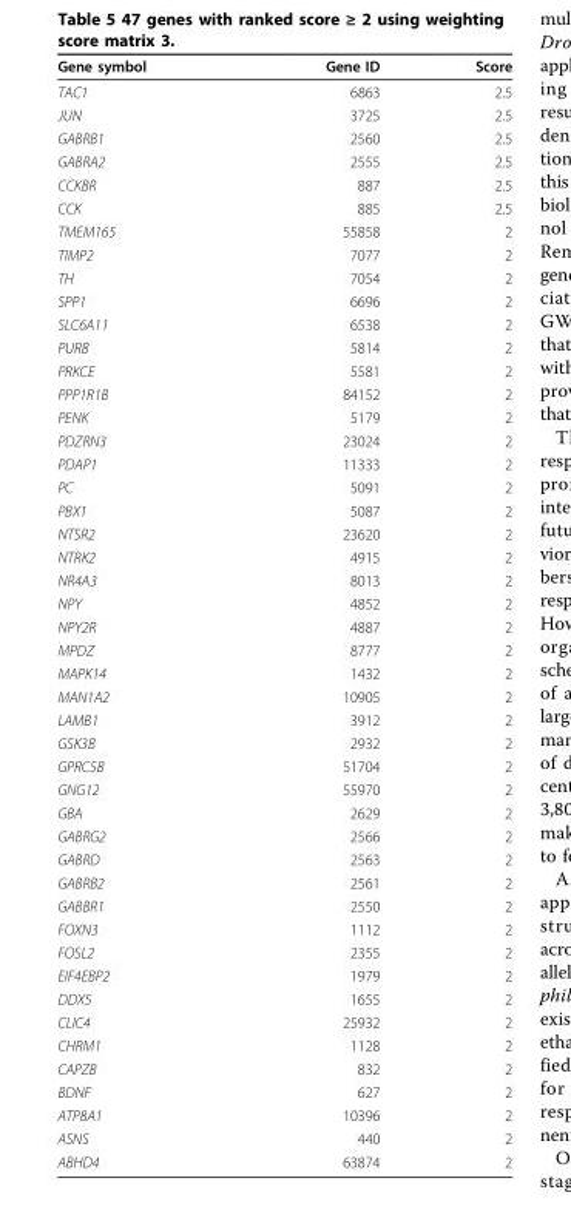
<table><thead><tr><td>Gene symbol</td><td>Gene ID</td><td>Score</td></tr></thead><tbody><tr><td>TAC1</td><td>6863</td><td>2.5</td></tr><tr><td>JUN</td><td>3725</td><td>2.5</td></tr><tr><td>GABRB1</td><td>2560</td><td>2.5</td></tr><tr><td>GABRA2</td><td>2555</td><td>2.5</td></tr><tr><td>CCKBR</td><td>887</td><td>2.5</td></tr><tr><td>CCK</td><td>885</td><td>2.5</td></tr><tr><td>TMEM165</td><td>55858</td><td>2</td></tr><tr><td>TIMP2</td><td>7077</td><td>2</td></tr><tr><td>TH</td><td>7054</td><td>2</td></tr><tr><td>SPP1</td><td>6696</td><td>2</td></tr><tr><td>SLC6A11</td><td>6538</td><td>2</td></tr><tr><td>PURB</td><td>5814</td><td>2</td></tr><tr><td>PRKCE</td><td>5581</td><td>2</td></tr><tr><td>PPP1R1B</td><td>84152</td><td>2</td></tr><tr><td>PENK</td><td>5179</td><td>2</td></tr><tr><td>PDZRN3</td><td>23024</td><td>2</td></tr><tr><td>PDAP1</td><td>11333</td><td>2</td></tr><tr><td>PC</td><td>5091</td><td>2</td></tr><tr><td>PBX1</td><td>5087</td><td>2</td></tr><tr><td>NTSR2</td><td>23620</td><td>2</td></tr><tr><td>NTRK2</td><td>4915</td><td>2</td></tr><tr><td>NR4A3</td><td>8013</td><td>2</td></tr><tr><td>NPY</td><td>4852</td><td>2</td></tr><tr><td>NPY2R</td><td>4887</td><td>2</td></tr><tr><td>MPDZ</td><td>8777</td><td>2</td></tr><tr><td>MAPK14</td><td>1432</td><td>2</td></tr><tr><td>MAN1A2</td><td>10905</td><td>2</td></tr><tr><td>LAMB1</td><td>3912</td><td>2</td></tr><tr><td>GSK3B</td><td>2932</td><td>2</td></tr><tr><td>GPRC5B</td><td>51704</td><td>2</td></tr><tr><td>GNG12</td><td>55970</td><td>2</td></tr><tr><td>GBA</td><td>2629</td><td>2</td></tr><tr><td>GABRG2</td><td>2566</td><td>2</td></tr><tr><td>GABRD</td><td>2563</td><td>2</td></tr><tr><td>GABRB2</td><td>2561</td><td>2</td></tr><tr><td>GABBR1</td><td>2550</td><td>2</td></tr><tr><td>FOXN3</td><td>1112</td><td>2</td></tr><tr><td>FOSL2</td><td>2355</td><td>2</td></tr><tr><td>EIF4EBP2</td><td>1979</td><td>2</td></tr><tr><td>DDX5</td><td>1655</td><td>2</td></tr><tr><td>CLIC4</td><td>25932</td><td>2</td></tr><tr><td>CHRM1</td><td>1128</td><td>2</td></tr><tr><td>CAPZB</td><td>832</td><td>2</td></tr><tr><td>BDNF</td><td>627</td><td>2</td></tr><tr><td>ATP8A1</td><td>10396</td><td>2</td></tr><tr><td>ASNS</td><td>440</td><td>2</td></tr><tr><td>ABHD4</td><td>63874</td><td>2</td></tr></tbody></table>